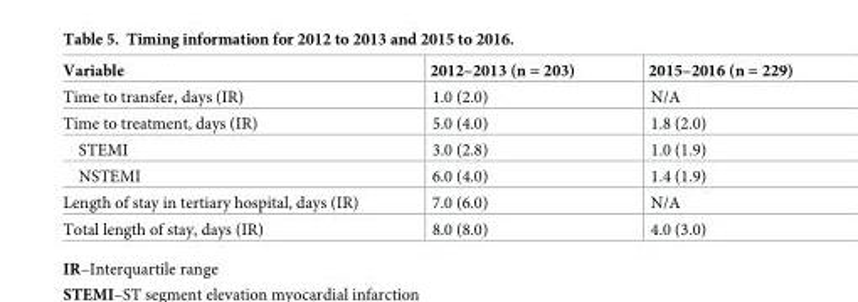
<table><thead><tr><td>Variable</td><td>2012–2013 (n = 203)</td><td>2015–2016 (n = 229)</td></tr></thead><tbody><tr><td>Time to transfer, days (IR)</td><td>1.0 (2.0)</td><td>N/A</td></tr><tr><td>Time to treatment, days (IR)</td><td>5.0 (4.0)</td><td>1.8 (2.0)</td></tr><tr><td>STEMI</td><td>3.0 (2.8)</td><td>1.0 (1.9)</td></tr><tr><td>NSTEMI</td><td>6.0 (4.0)</td><td>1.4 (1.9)</td></tr><tr><td>Length of stay in tertiary hospital, days (IR)</td><td>7.0 (6.0)</td><td>N/A</td></tr><tr><td>Total length of stay, days (IR)</td><td>8.0 (8.0)</td><td>4.0 (3.0)</td></tr></tbody></table>